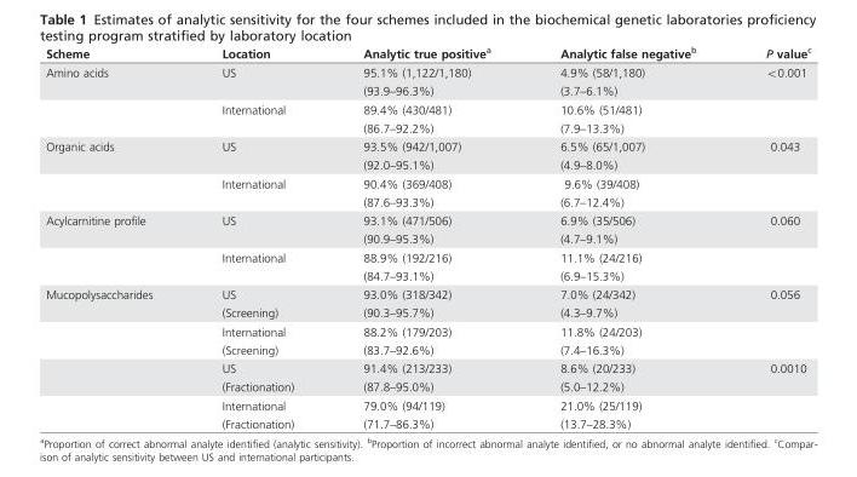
<table><thead><tr><td>Scheme</td><td>Location</td><td>Analytic true positive<sup>a</sup></td><td>Analytic false negative<sup>b</sup></td><td>P value<sup>c</sup></td></tr></thead><tbody><tr><td rowspan="2">Amino acids</td><td>US</td><td>95.1% (1,122/1,180) (93.9–96.3%)</td><td>4.9% (58/1,180) (3.7–6.1%)</td><td>&lt;0.001</td></tr><tr><td>International</td><td>89.4% (430/481) (86.7–92.2%)</td><td>10.6% (51/481) (7.9–13.3%)</td><td></td></tr><tr><td rowspan="2">Organic acids</td><td>US</td><td>93.5% (942/1,007) (92.0–95.1%)</td><td>6.5% (65/1,007) (4.9–8.0%)</td><td>0.043</td></tr><tr><td>International</td><td>90.4% (369/408) (87.6–93.3%)</td><td>9.6% (39/408) (6.7–12.4%)</td><td></td></tr><tr><td rowspan="2">Acylcarnitine profile</td><td>US</td><td>93.1% (471/506) (90.9–95.3%)</td><td>6.9% (35/506) (4.7–9.1%)</td><td>0.060</td></tr><tr><td>International</td><td>88.9% (192/216) (84.7–93.1%)</td><td>11.1% (24/216) (6.9–15.3%)</td><td></td></tr><tr><td rowspan="4">Mucopolysaccharides</td><td>US (Screening)</td><td>93.0% (318/342) (90.3–95.7%)</td><td>7.0% (24/342) (4.3–9.7%)</td><td>0.056</td></tr><tr><td>International (Screening)</td><td>88.2% (179/203) (83.7–92.6%)</td><td>11.8% (24/203) (7.4–16.3%)</td><td></td></tr><tr><td>US (Fractionation)</td><td>91.4% (213/233) (87.8–95.0%)</td><td>8.6% (20/233) (5.0–12.2%)</td><td>0.0010</td></tr><tr><td>International (Fractionation)</td><td>79.0% (94/119) (71.7–86.3%)</td><td>21.0% (25/119) (13.7–28.3%)</td><td></td></tr></tbody></table>